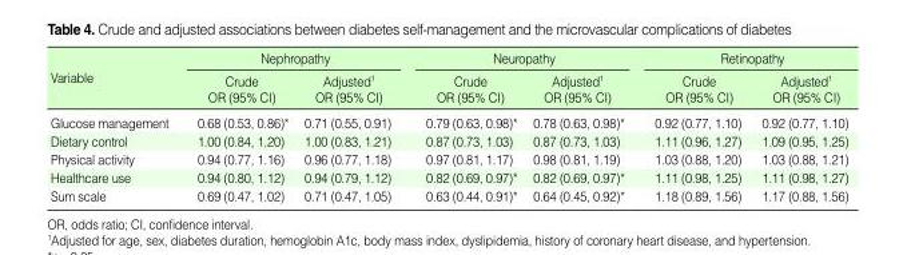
<table><thead><tr><td rowspan="2">Variable</td><td colspan="2">Nephropathy</td><td colspan="2">Neuropathy</td><td colspan="2">Retinopathy</td></tr><tr><td>Crude OR (95% CI)</td><td>Adjusted<sup>1</sup> OR (95% CI)</td><td>Crude OR (95% CI)</td><td>Adjusted<sup>1</sup> OR (95% CI)</td><td>Crude OR (95% CI)</td><td>Adjusted<sup>1</sup> OR (95% CI)</td></tr></thead><tbody><tr><td>Glucose management</td><td>0.68 (0.53, 0.86)*</td><td>0.71 (0.55, 0.91)</td><td>0.79 (0.63, 0.98)*</td><td>0.78 (0.63, 0.98)*</td><td>0.92 (0.77, 1.10)</td><td>0.92 (0.77, 1.10)</td></tr><tr><td>Dietary control</td><td>1.00 (0.84, 1.20)</td><td>1.00 (0.83, 1.21)</td><td>0.87 (0.73, 1.03)</td><td>0.87 (0.73, 1.03)</td><td>1.11 (0.96, 1.27)</td><td>1.09 (0.95, 1.25)</td></tr><tr><td>Physical activity</td><td>0.94 (0.77, 1.16)</td><td>0.96 (0.77, 1.18)</td><td>0.97 (0.81, 1.17)</td><td>0.98 (0.81, 1.19)</td><td>1.03 (0.88, 1.20)</td><td>1.03 (0.88, 1.21)</td></tr><tr><td>Healthcare use</td><td>0.94 (0.80, 1.12)</td><td>0.94 (0.79, 1.12)</td><td>0.82 (0.69, 0.97)*</td><td>0.82 (0.69, 0.97)*</td><td>1.11 (0.98, 1.25)</td><td>1.11 (0.98, 1.27)</td></tr><tr><td>Sum scale</td><td>0.69 (0.47, 1.02)</td><td>0.71 (0.47, 1.05)</td><td>0.63 (0.44, 0.91)*</td><td>0.64 (0.45, 0.92)*</td><td>1.18 (0.89, 1.56)</td><td>1.17 (0.88, 1.56)</td></tr></tbody></table>